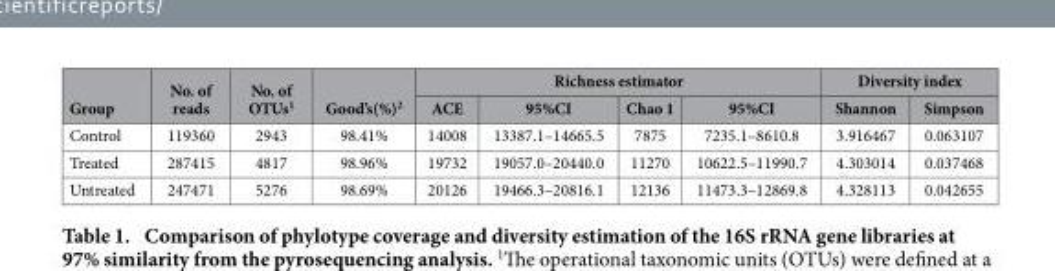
<table><thead><tr><td rowspan="2">Group</td><td rowspan="2">No. of reads</td><td rowspan="2">No. of OTUs<sup>1</sup></td><td rowspan="2">Good’s(%)<sup>2</sup></td><td colspan="4">Richness estimator</td><td colspan="2">Diversity index</td></tr><tr><td>ACE</td><td>95%CI</td><td>Chao 1</td><td>95%CI</td><td>Shannon</td><td>Simpson</td></tr></thead><tbody><tr><td>Control</td><td>119360</td><td>2943</td><td>98.41%</td><td>14008</td><td>13387.1–14665.5</td><td>7875</td><td>7235.1–8610.8</td><td>3.916467</td><td>0.063107</td></tr><tr><td>Treated</td><td>287415</td><td>4817</td><td>98.96%</td><td>19732</td><td>19057.0–20440.0</td><td>11270</td><td>10622.5–11990.7</td><td>4.303014</td><td>0.037468</td></tr><tr><td>Untreated</td><td>247471</td><td>5276</td><td>98.69%</td><td>20126</td><td>19466.3–20816.1</td><td>12136</td><td>11473.3–12869.8</td><td>4.328113</td><td>0.042655</td></tr></tbody></table>